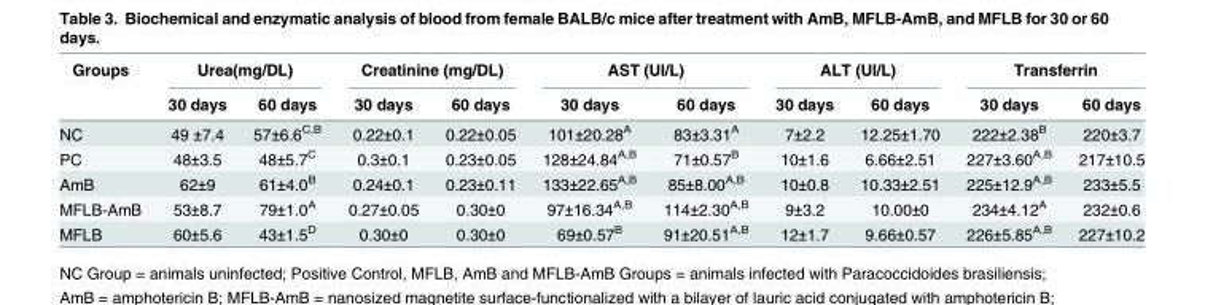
<table><thead><tr><td rowspan="2">Groups</td><td colspan="2">Urea(mg/DL)</td><td colspan="2">Creatinine (mg/DL)</td><td colspan="2">AST (UI/L)</td><td colspan="2">ALT (UI/L)</td><td colspan="2">Transferrin</td></tr><tr><td>30 days</td><td>60 days</td><td>30 days</td><td>60 days</td><td>30 days</td><td>60 days</td><td>30 days</td><td>60 days</td><td>30 days</td><td>60 days</td></tr></thead><tbody><tr><td>NC</td><td>49 ±7.4</td><td>57±6.6<sup>C,B</sup></td><td>0.22±0.1</td><td>0.22±0.05</td><td>101±20.28<sup>A</sup></td><td>83±3.31<sup>A</sup></td><td>7±2.2</td><td>12.25±1.70</td><td>222±2.38<sup>B</sup></td><td>220±3.7</td></tr><tr><td>PC</td><td>48±3.5</td><td>48±5.7<sup>C</sup></td><td>0.3±0.1</td><td>0.23±0.05</td><td>128±24.84<sup>A,B</sup></td><td>71±0.57<sup>B</sup></td><td>10±1.6</td><td>6.66±2.51</td><td>227±3.60<sup>A,B</sup></td><td>217±10.5</td></tr><tr><td>AmB</td><td>62±9</td><td>61±4.0<sup>B</sup></td><td>0.24±0.1</td><td>0.23±0.11</td><td>133±22.65<sup>A,B</sup></td><td>85±8.00<sup>A,B</sup></td><td>10±0.8</td><td>10.33±2.51</td><td>225±12.9<sup>A,B</sup></td><td>233±5.5</td></tr><tr><td>MFLB-AmB</td><td>53±8.7</td><td>79±1.0<sup>A</sup></td><td>0.27±0.05</td><td>0.30±0</td><td>97±16.34<sup>A,B</sup></td><td>114±2.30<sup>A,B</sup></td><td>9±3.2</td><td>10.00±0</td><td>234±4.12<sup>A</sup></td><td>232±0.6</td></tr><tr><td>MFLB</td><td>60±5.6</td><td>43±1.5<sup>D</sup></td><td>0.30±0</td><td>0.30±0</td><td>69±0.57<sup>B</sup></td><td>91±20.51<sup>A,B</sup></td><td>12±1.7</td><td>9.66±0.57</td><td>226±5.85<sup>A,B</sup></td><td>227±10.2</td></tr></tbody></table>